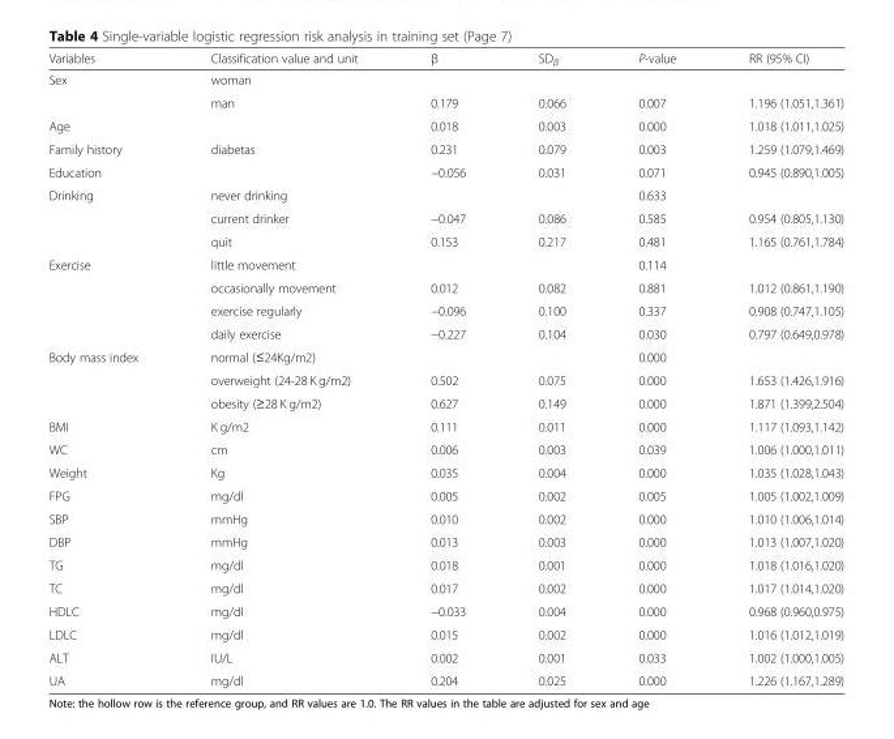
<table><thead><tr><td>Variables</td><td>Classification value and unit</td><td>β</td><td>SD<sub>β</sub></td><td>P-value</td><td>RR (95% CI)</td></tr></thead><tbody><tr><td rowspan="2">Sex</td><td>woman</td><td></td><td></td><td></td><td></td></tr><tr><td>man</td><td>0.179</td><td>0.066</td><td>0.007</td><td>1.196 (1.051,1.361)</td></tr><tr><td>Age</td><td></td><td>0.018</td><td>0.003</td><td>0.000</td><td>1.018 (1.011,1.025)</td></tr><tr><td>Family history</td><td>diabetas</td><td>0.231</td><td>0.079</td><td>0.003</td><td>1.259 (1.079,1.469)</td></tr><tr><td>Education</td><td></td><td>−0.056</td><td>0.031</td><td>0.071</td><td>0.945 (0.890,1.005)</td></tr><tr><td rowspan="3">Drinking</td><td>never drinking</td><td></td><td></td><td>0.633</td><td></td></tr><tr><td>current drinker</td><td>−0.047</td><td>0.086</td><td>0.585</td><td>0.954 (0.805,1.130)</td></tr><tr><td>quit</td><td>0.153</td><td>0.217</td><td>0.481</td><td>1.165 (0.761,1.784)</td></tr><tr><td rowspan="4">Exercise</td><td>little movement</td><td></td><td></td><td>0.114</td><td></td></tr><tr><td>occasionally movement</td><td>0.012</td><td>0.082</td><td>0.881</td><td>1.012 (0.861,1.190)</td></tr><tr><td>exercise regularly</td><td>−0.096</td><td>0.100</td><td>0.337</td><td>0.908 (0.747,1.105)</td></tr><tr><td>daily exercise</td><td>−0.227</td><td>0.104</td><td>0.030</td><td>0.797 (0.649,0.978)</td></tr><tr><td rowspan="3">Body mass index</td><td>normal (≤24Kg/m2)</td><td></td><td></td><td>0.000</td><td></td></tr><tr><td>overweight (24-28 K g/m2)</td><td>0.502</td><td>0.075</td><td>0.000</td><td>1.653 (1.426,1.916)</td></tr><tr><td>obesity (≥28 K g/m2)</td><td>0.627</td><td>0.149</td><td>0.000</td><td>1.871 (1.399,2.504)</td></tr><tr><td>BMI</td><td>K g/m2</td><td>0.111</td><td>0.011</td><td>0.000</td><td>1.117 (1.093,1.142)</td></tr><tr><td>WC</td><td>cm</td><td>0.006</td><td>0.003</td><td>0.039</td><td>1.006 (1.000,1.011)</td></tr><tr><td>Weight</td><td>Kg</td><td>0.035</td><td>0.004</td><td>0.000</td><td>1.035 (1.028,1.043)</td></tr><tr><td>FPG</td><td>mg/dl</td><td>0.005</td><td>0.002</td><td>0.005</td><td>1.005 (1.002,1.009)</td></tr><tr><td>SBP</td><td>mmHg</td><td>0.010</td><td>0.002</td><td>0.000</td><td>1.010 (1.006,1.014)</td></tr><tr><td>DBP</td><td>mmHg</td><td>0.013</td><td>0.003</td><td>0.000</td><td>1.013 (1.007,1.020)</td></tr><tr><td>TG</td><td>mg/dl</td><td>0.018</td><td>0.001</td><td>0.000</td><td>1.018 (1.016,1.020)</td></tr><tr><td>TC</td><td>mg/dl</td><td>0.017</td><td>0.002</td><td>0.000</td><td>1.017 (1.014,1.020)</td></tr><tr><td>HDLC</td><td>mg/dl</td><td>−0.033</td><td>0.004</td><td>0.000</td><td>0.968 (0.960,0.975)</td></tr><tr><td>LDLC</td><td>mg/dl</td><td>0.015</td><td>0.002</td><td>0.000</td><td>1.016 (1.012,1.019)</td></tr><tr><td>ALT</td><td>IU/L</td><td>0.002</td><td>0.001</td><td>0.033</td><td>1.002 (1.000,1.005)</td></tr><tr><td>UA</td><td>mg/dl</td><td>0.204</td><td>0.025</td><td>0.000</td><td>1.226 (1.167,1.289)</td></tr></tbody></table>